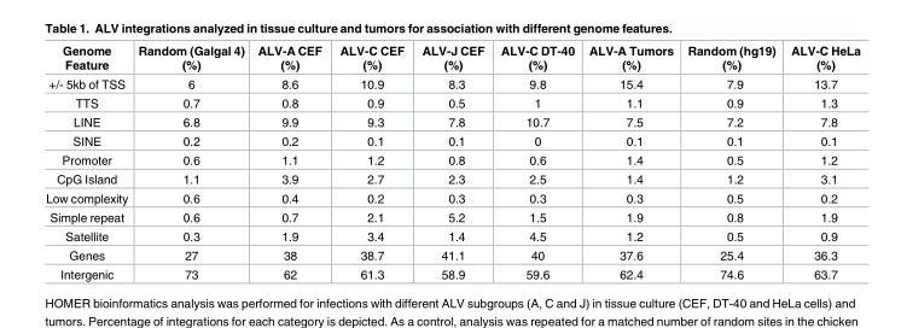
<table><thead><tr><td>Genome Feature</td><td>Random (Galgal 4) (%)</td><td>ALV-A CEF (%)</td><td>ALV-C CEF (%)</td><td>ALV-J CEF (%)</td><td>ALV-C DT-40 (%)</td><td>ALV-A Tumors (%)</td><td>Random (hg19) (%)</td><td>ALV-C HeLa (%)</td></tr></thead><tbody><tr><td>+/- 5kb of TSS</td><td>6</td><td>8.6</td><td>10.9</td><td>8.3</td><td>9.8</td><td>15.4</td><td>7.9</td><td>13.7</td></tr><tr><td>TTS</td><td>0.7</td><td>0.8</td><td>0.9</td><td>0.5</td><td>1</td><td>1.1</td><td>0.9</td><td>1.3</td></tr><tr><td>LINE</td><td>6.8</td><td>9.9</td><td>9.3</td><td>7.8</td><td>10.7</td><td>7.5</td><td>7.2</td><td>7.8</td></tr><tr><td>SINE</td><td>0.2</td><td>0.2</td><td>0.1</td><td>0.1</td><td>0</td><td>0.1</td><td>0.1</td><td>0.1</td></tr><tr><td>Promoter</td><td>0.6</td><td>1.1</td><td>1.2</td><td>0.8</td><td>0.6</td><td>1.4</td><td>0.5</td><td>1.2</td></tr><tr><td>CpG Island</td><td>1.1</td><td>3.9</td><td>2.7</td><td>2.3</td><td>2.5</td><td>1.4</td><td>1.2</td><td>3.1</td></tr><tr><td>Low complexity</td><td>0.6</td><td>0.4</td><td>0.2</td><td>0.3</td><td>0.3</td><td>0.3</td><td>0.5</td><td>0.2</td></tr><tr><td>Simple repeat</td><td>0.6</td><td>0.7</td><td>2.1</td><td>5.2</td><td>1.5</td><td>1.9</td><td>0.8</td><td>1.9</td></tr><tr><td>Satellite</td><td>0.3</td><td>1.9</td><td>3.4</td><td>1.4</td><td>4.5</td><td>1.2</td><td>0.5</td><td>0.9</td></tr><tr><td>Genes</td><td>27</td><td>38</td><td>38.7</td><td>41.1</td><td>40</td><td>37.6</td><td>25.4</td><td>36.3</td></tr><tr><td>Intergenic</td><td>73</td><td>62</td><td>61.3</td><td>58.9</td><td>59.6</td><td>62.4</td><td>74.6</td><td>63.7</td></tr></tbody></table>